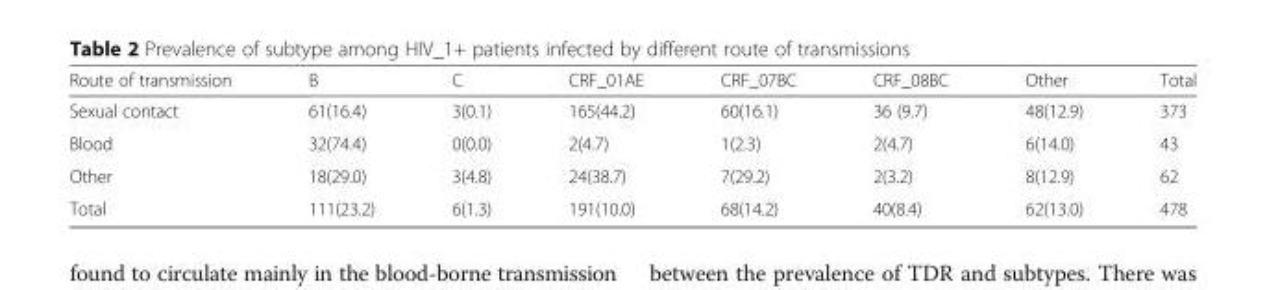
<table><thead><tr><td>Route of transmission</td><td>B</td><td>C</td><td>CRF_01AE</td><td>CRF_07BC</td><td>CRF_08BC</td><td>Other</td><td>Total</td></tr></thead><tbody><tr><td>Sexual contact</td><td>61(16.4)</td><td>3(0.1)</td><td>165(44.2)</td><td>60(16.1)</td><td>36 (9.7)</td><td>48(12.9)</td><td>373</td></tr><tr><td>Blood</td><td>32(74.4)</td><td>0(0.0)</td><td>2(4.7)</td><td>1(2.3)</td><td>2(4.7)</td><td>6(14.0)</td><td>43</td></tr><tr><td>Other</td><td>18(29.0)</td><td>3(4.8)</td><td>24(38.7)</td><td>7(29.2)</td><td>2(3.2)</td><td>8(12.9)</td><td>62</td></tr><tr><td>Total</td><td>111(23.2)</td><td>6(1.3)</td><td>191(10.0)</td><td>68(14.2)</td><td>40(8.4)</td><td>62(13.0)</td><td>478</td></tr></tbody></table>